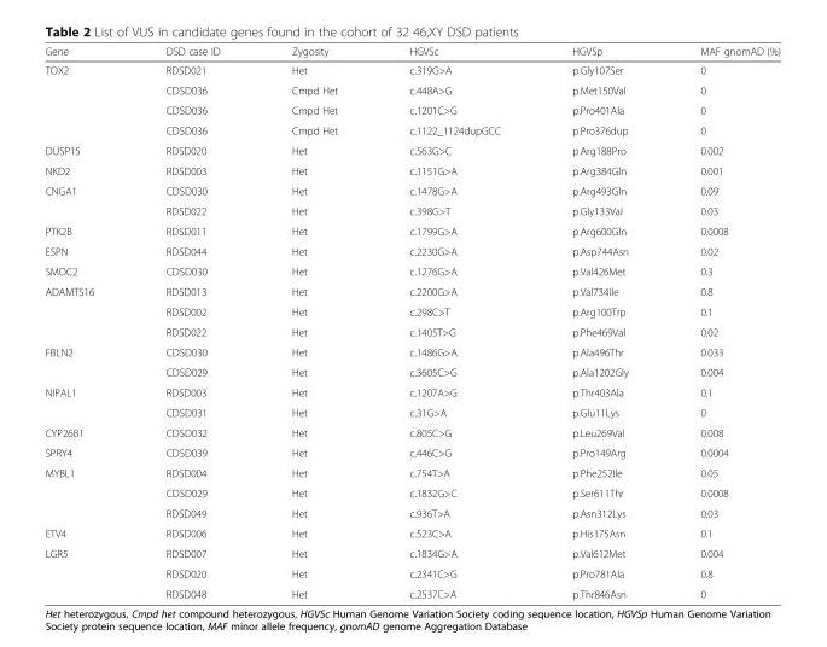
<table><thead><tr><td>Gene</td><td>DSD case ID</td><td>Zygosity</td><td>HGVSc</td><td>HGVSp</td><td>MAF gnomAD (%)</td></tr></thead><tbody><tr><td rowspan="4">TOX2</td><td>RDSD021</td><td>Het</td><td>c.319G&gt;A</td><td>p.Gly107Ser</td><td>0</td></tr><tr><td>CDSD036</td><td>Cmpd Het</td><td>c.448A&gt;G</td><td>p.Met150Val</td><td>0</td></tr><tr><td>CDSD036</td><td>Cmpd Het</td><td>c.1201C&gt;G</td><td>p.Pro401Ala</td><td>0</td></tr><tr><td>CDSD036</td><td>Cmpd Het</td><td>c.1122_1124dupGCC</td><td>p.Pro376dup</td><td>0</td></tr><tr><td>DUSP15</td><td>RDSD020</td><td>Het</td><td>c.563G&gt;C</td><td>p.Arg188Pro</td><td>0.002</td></tr><tr><td>NKD2</td><td>RDSD003</td><td>Het</td><td>c.1151G&gt;A</td><td>p.Arg384Gln</td><td>0.001</td></tr><tr><td rowspan="2">CNGA1</td><td>CDSD030</td><td>Het</td><td>c.1478G&gt;A</td><td>p.Arg493Gln</td><td>0.09</td></tr><tr><td>RDSD022</td><td>Het</td><td>c.398G&gt;T</td><td>p.Gly133Val</td><td>0.03</td></tr><tr><td>PTK2B</td><td>RDSD011</td><td>Het</td><td>c.1799G&gt;A</td><td>p.Arg600Gln</td><td>0.0008</td></tr><tr><td>ESPN</td><td>RDSD044</td><td>Het</td><td>c.2230G&gt;A</td><td>p.Asp744Asn</td><td>0.02</td></tr><tr><td>SMOC2</td><td>CDSD030</td><td>Het</td><td>c.1276G&gt;A</td><td>p.Val426Met</td><td>0.3</td></tr><tr><td rowspan="3">ADAMTS16</td><td>RDSD013</td><td>Het</td><td>c.2200G&gt;A</td><td>p.Val734Ile</td><td>0.8</td></tr><tr><td>RDSD002</td><td>Het</td><td>c.298C&gt;T</td><td>p.Arg100Trp</td><td>0.1</td></tr><tr><td>RDSD022</td><td>Het</td><td>c.1405T&gt;G</td><td>p.Phe469Val</td><td>0.02</td></tr><tr><td rowspan="2">FBLN2</td><td>CDSD030</td><td>Het</td><td>c.1486G&gt;A</td><td>p.Ala496Thr</td><td>0.033</td></tr><tr><td>CDSD029</td><td>Het</td><td>c.3605C&gt;G</td><td>p.Ala1202Gly</td><td>0.004</td></tr><tr><td rowspan="2">NIPAL1</td><td>RDSD003</td><td>Het</td><td>c.1207A&gt;G</td><td>p.Thr403Ala</td><td>0.1</td></tr><tr><td>CDSD031</td><td>Het</td><td>c.31G&gt;A</td><td>p.Glu11Lys</td><td>0</td></tr><tr><td>CYP26B1</td><td>CDSD032</td><td>Het</td><td>c.805C&gt;G</td><td>p.Leu269Val</td><td>0.008</td></tr><tr><td>SPRY4</td><td>CDSD039</td><td>Het</td><td>c.446C&gt;G</td><td>p.Pro149Arg</td><td>0.0004</td></tr><tr><td rowspan="3">MYBL1</td><td>RDSD004</td><td>Het</td><td>c.754T&gt;A</td><td>p.Phe252Ile</td><td>0.05</td></tr><tr><td>CDSD029</td><td>Het</td><td>c.1832G&gt;C</td><td>p.Ser611Thr</td><td>0.0008</td></tr><tr><td>RDSD049</td><td>Het</td><td>c.936T&gt;A</td><td>p.Asn312Lys</td><td>0.03</td></tr><tr><td>ETV4</td><td>RDSD006</td><td>Het</td><td>c.523C&gt;A</td><td>p.His175Asn</td><td>0.1</td></tr><tr><td rowspan="3">LGR5</td><td>RDSD007</td><td>Het</td><td>c.1834G&gt;A</td><td>p.Val612Met</td><td>0.004</td></tr><tr><td>RDSD020</td><td>Het</td><td>c.2341C&gt;G</td><td>p.Pro781Ala</td><td>0.8</td></tr><tr><td>RDSD048</td><td>Het</td><td>c.2537C&gt;A</td><td>p.Thr846Asn</td><td>0</td></tr></tbody></table>